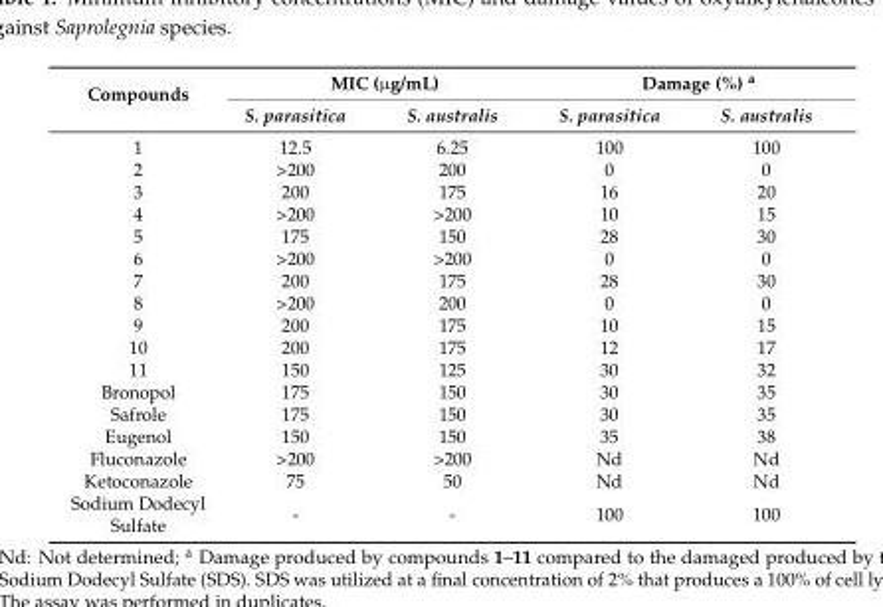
<table><thead><tr><td rowspan="2">Compounds</td><td colspan="2">MIC (µg/mL)</td><td colspan="2">Damage (%) a</td></tr><tr><td>S. parasitica</td><td>S. australis</td><td>S. parasitica</td><td>S. australis</td></tr></thead><tbody><tr><td>1</td><td>12.5</td><td>6.25</td><td>100</td><td>100</td></tr><tr><td>2</td><td>&gt;200</td><td>200</td><td>0</td><td>0</td></tr><tr><td>3</td><td>200</td><td>175</td><td>16</td><td>20</td></tr><tr><td>4</td><td>&gt;200</td><td>&gt;200</td><td>10</td><td>15</td></tr><tr><td>5</td><td>175</td><td>150</td><td>28</td><td>30</td></tr><tr><td>6</td><td>&gt;200</td><td>&gt;200</td><td>0</td><td>0</td></tr><tr><td>7</td><td>200</td><td>175</td><td>28</td><td>30</td></tr><tr><td>8</td><td>&gt;200</td><td>200</td><td>0</td><td>0</td></tr><tr><td>9</td><td>200</td><td>175</td><td>10</td><td>15</td></tr><tr><td>10</td><td>200</td><td>175</td><td>12</td><td>17</td></tr><tr><td>11</td><td>150</td><td>125</td><td>30</td><td>32</td></tr><tr><td>Bronopol</td><td>175</td><td>150</td><td>30</td><td>35</td></tr><tr><td>Safrole</td><td>175</td><td>150</td><td>30</td><td>35</td></tr><tr><td>Eugenol</td><td>150</td><td>150</td><td>35</td><td>38</td></tr><tr><td>Fluconazole</td><td>&gt;200</td><td>&gt;200</td><td>Nd</td><td>Nd</td></tr><tr><td>Ketoconazole</td><td>75</td><td>50</td><td>Nd</td><td>Nd</td></tr><tr><td>Sodium Dodecyl Sulfate</td><td>-</td><td>-</td><td>100</td><td>100</td></tr></tbody></table>